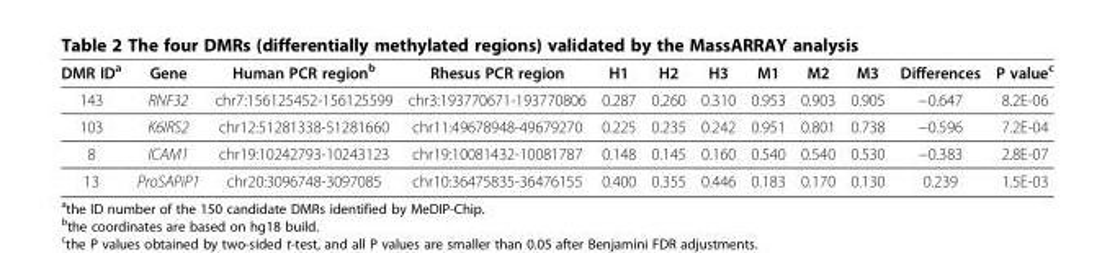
<table><thead><tr><td>DMR ID<sup>a</sup></td><td>Gene</td><td>Human PCR region<sup>b</sup></td><td>Rhesus PCR region</td><td>H1</td><td>H2</td><td>H3</td><td>M1</td><td>M2</td><td>M3</td><td>Differences</td><td>P value<sup>c</sup></td></tr></thead><tbody><tr><td>143</td><td>RNF32</td><td>chr7:156125452-156125599</td><td>chr3:193770671-193770806</td><td>0.287</td><td>0.260</td><td>0.310</td><td>0.953</td><td>0.903</td><td>0.905</td><td>−0.647</td><td>8.2E-06</td></tr><tr><td>103</td><td>K6IRS2</td><td>chr12:51281338-51281660</td><td>chr11:49678948-49679270</td><td>0.225</td><td>0.235</td><td>0.242</td><td>0.951</td><td>0.801</td><td>0.738</td><td>−0.596</td><td>7.2E-04</td></tr><tr><td>8</td><td>ICAM1</td><td>chr19:10242793-10243123</td><td>chr19:10081432-10081787</td><td>0.148</td><td>0.145</td><td>0.160</td><td>0.540</td><td>0.540</td><td>0.530</td><td>−0.383</td><td>2.8E-07</td></tr><tr><td>13</td><td>ProSAPiP1</td><td>chr20:3096748-3097085</td><td>chr10:36475835-36476155</td><td>0.400</td><td>0.355</td><td>0.446</td><td>0.183</td><td>0.170</td><td>0.130</td><td>0.239</td><td>1.5E-03</td></tr></tbody></table>